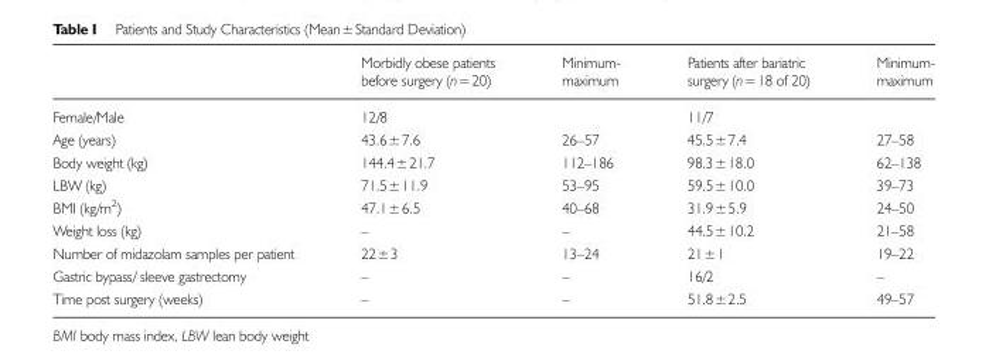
<table><thead><tr><td></td><td>Morbidly obese patients before surgery (n=20)</td><td>Minimum- maximum</td><td>Patients after bariatric surgery (n=18 of 20)</td><td>Minimum- maximum</td></tr></thead><tbody><tr><td>Female/Male</td><td>12/8</td><td></td><td>11/7</td><td></td></tr><tr><td>Age (years)</td><td>43.6±7.6</td><td>26–57</td><td>45.5±7.4</td><td>27–58</td></tr><tr><td>Body weight (kg)</td><td>144.4±21.7</td><td>112–186</td><td>98.3±18.0</td><td>62–138</td></tr><tr><td>LBW (kg)</td><td>71.5±11.9</td><td>53–95</td><td>59.5±10.0</td><td>39–73</td></tr><tr><td>BMI (kg/m<sup>2</sup>)</td><td>47.1±6.5</td><td>40–68</td><td>31.9±5.9</td><td>24–50</td></tr><tr><td>Weight loss (kg)</td><td>–</td><td>–</td><td>44.5±10.2</td><td>21–58</td></tr><tr><td>Number of midazolam samples per patient</td><td>22±3</td><td>13–24</td><td>21±1</td><td>19–22</td></tr><tr><td>Gastric bypass/ sleeve gastrectomy</td><td>–</td><td>–</td><td>16/2</td><td>–</td></tr><tr><td>Time post surgery (weeks)</td><td>–</td><td>–</td><td>51.8±2.5</td><td>49–57</td></tr></tbody></table>